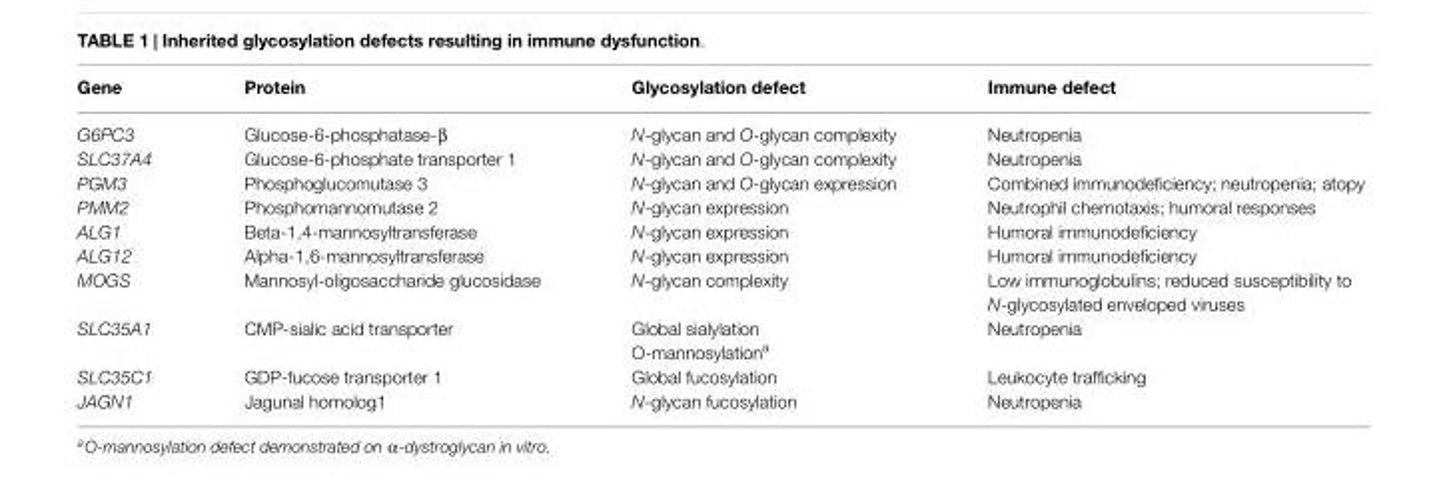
<table><thead><tr><td>Gene</td><td>Protein</td><td>Glycosylation defect</td><td>Immune defect</td></tr></thead><tbody><tr><td>G6PC3</td><td>Glucose-6-phosphatase-β</td><td>N-glycan and O-glycan complexity</td><td>Neutropenia</td></tr><tr><td>SLC37A4</td><td>Glucose-6-phosphate transporter 1</td><td>N-glycan and O-glycan complexity</td><td>Neutropenia</td></tr><tr><td>PGM3</td><td>Phosphoglucomutase 3</td><td>N-glycan and O-glycan expression</td><td>Combined immunodeficiency; neutropenia; atopy</td></tr><tr><td>PMM2</td><td>Phosphomannomutase 2</td><td>N-glycan expression</td><td>Neutrophil chemotaxis; humoral responses</td></tr><tr><td>ALG1</td><td>Beta-1,4-mannosyltransferase</td><td>N-glycan expression</td><td>Humoral immunodeficiency</td></tr><tr><td>ALG12</td><td>Alpha-1,6-mannosyltransferase</td><td>N-glycan expression</td><td>Humoral immunodeficiency</td></tr><tr><td>MOGS</td><td>Mannosyl-oligosaccharide glucosidase</td><td>N-glycan complexity</td><td>Low immunoglobulins; reduced susceptibility to N-glycosylated enveloped viruses</td></tr><tr><td rowspan="2">SLC35A1</td><td>CMP-sialic acid transporter</td><td>Global sialylation</td><td>Neutropenia</td></tr><tr><td></td><td>O-mannosylation<sup>a</sup></td><td></td></tr><tr><td>SLC35C1</td><td>GDP-fucose transporter 1</td><td>Global fucosylation</td><td>Leukocyte trafficking</td></tr><tr><td>JAGN1</td><td>Jagunal homolog1</td><td>N-glycan fucosylation</td><td>Neutropenia</td></tr></tbody></table>